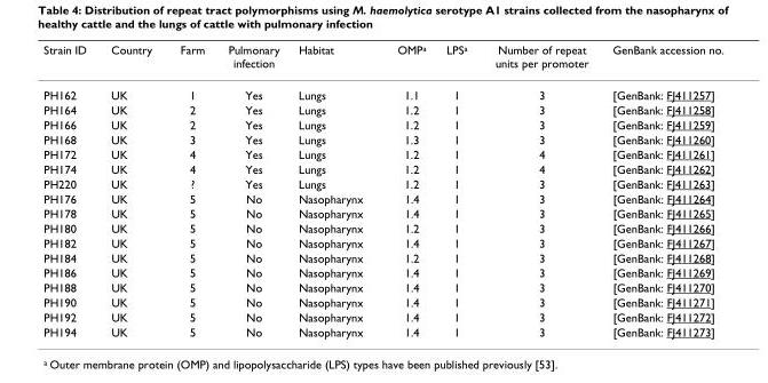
<table><thead><tr><td>Strain ID</td><td>Country</td><td>Farm</td><td>Pulmonary infection</td><td>Habitat</td><td>OMP<sup>a</sup></td><td>LPS<sup>a</sup></td><td>Number of repeat units per promoter</td><td>GenBank accession no.</td></tr></thead><tbody><tr><td>PH162</td><td>UK</td><td>1</td><td>Yes</td><td>Lungs</td><td>1.1</td><td>1</td><td>3</td><td>[GenBank: FJ411257]</td></tr><tr><td>PH164</td><td>UK</td><td>2</td><td>Yes</td><td>Lungs</td><td>1.2</td><td>1</td><td>3</td><td>[GenBank: FJ411258]</td></tr><tr><td>PH166</td><td>UK</td><td>2</td><td>Yes</td><td>Lungs</td><td>1.2</td><td>1</td><td>3</td><td>[GenBank: FJ411259]</td></tr><tr><td>PH168</td><td>UK</td><td>3</td><td>Yes</td><td>Lungs</td><td>1.3</td><td>1</td><td>3</td><td>[GenBank: FJ411260]</td></tr><tr><td>PH172</td><td>UK</td><td>4</td><td>Yes</td><td>Lungs</td><td>1.2</td><td>1</td><td>4</td><td>[GenBank: FJ411261]</td></tr><tr><td>PH174</td><td>UK</td><td>4</td><td>Yes</td><td>Lungs</td><td>1.2</td><td>1</td><td>4</td><td>[GenBank: FJ411262]</td></tr><tr><td>PH220</td><td>UK</td><td>?</td><td>Yes</td><td>Lungs</td><td>1.2</td><td>1</td><td>3</td><td>[GenBank: FJ411263]</td></tr><tr><td>PH176</td><td>UK</td><td>5</td><td>No</td><td>Nasopharynx</td><td>1.4</td><td>1</td><td>3</td><td>[GenBank: FJ411264]</td></tr><tr><td>PH178</td><td>UK</td><td>5</td><td>No</td><td>Nasopharynx</td><td>1.4</td><td>1</td><td>3</td><td>[GenBank: FJ411265]</td></tr><tr><td>PH180</td><td>UK</td><td>5</td><td>No</td><td>Nasopharynx</td><td>1.2</td><td>1</td><td>3</td><td>[GenBank: FJ411266]</td></tr><tr><td>PH182</td><td>UK</td><td>5</td><td>No</td><td>Nasopharynx</td><td>1.4</td><td>1</td><td>3</td><td>[GenBank: FJ411267]</td></tr><tr><td>PH184</td><td>UK</td><td>5</td><td>No</td><td>Nasopharynx</td><td>1.2</td><td>1</td><td>3</td><td>[GenBank: FJ411268]</td></tr><tr><td>PH186</td><td>UK</td><td>5</td><td>No</td><td>Nasopharynx</td><td>1.4</td><td>1</td><td>3</td><td>[GenBank: FJ411269]</td></tr><tr><td>PH188</td><td>UK</td><td>5</td><td>No</td><td>Nasopharynx</td><td>1.4</td><td>1</td><td>3</td><td>[GenBank: FJ411270]</td></tr><tr><td>PH190</td><td>UK</td><td>5</td><td>No</td><td>Nasopharynx</td><td>1.4</td><td>1</td><td>3</td><td>[GenBank: FJ411271]</td></tr><tr><td>PH192</td><td>UK</td><td>5</td><td>No</td><td>Nasopharynx</td><td>1.4</td><td>1</td><td>3</td><td>[GenBank: FJ411272]</td></tr><tr><td>PH194</td><td>UK</td><td>5</td><td>No</td><td>Nasopharynx</td><td>1.4</td><td>1</td><td>3</td><td>[GenBank: FJ411273]</td></tr></tbody></table>